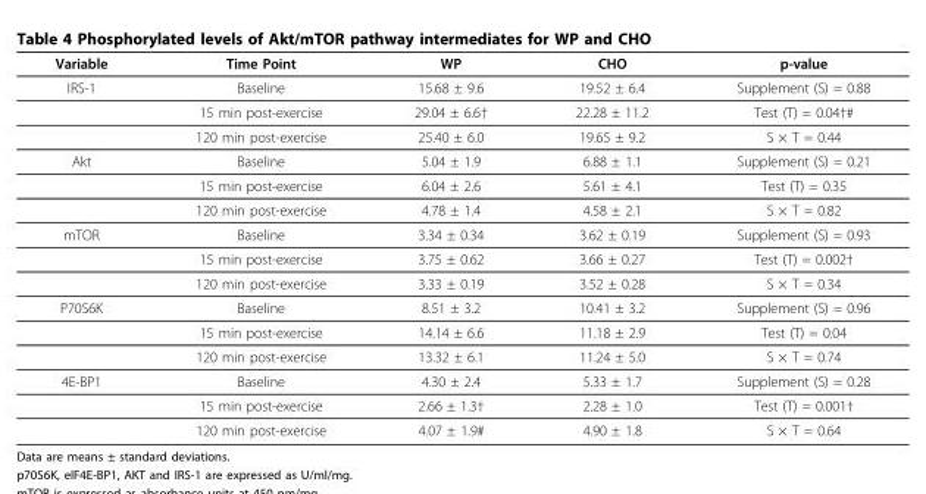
<table><thead><tr><td>Variable</td><td>Time Point</td><td>WP</td><td>CHO</td><td>p-value</td></tr></thead><tbody><tr><td rowspan="3">IRS-1</td><td>Baseline</td><td>15.68 ± 9.6</td><td>19.52 ± 6.4</td><td>Supplement (S) = 0.88</td></tr><tr><td>15 min post-exercise</td><td>29.04 ± 6.6†</td><td>22.28 ± 11.2</td><td>Test (T) = 0.04†#</td></tr><tr><td>120 min post-exercise</td><td>25.40 ± 6.0</td><td>19.65 ± 9.2</td><td>S × T = 0.44</td></tr><tr><td rowspan="3">Akt</td><td>Baseline</td><td>5.04 ± 1.9</td><td>6.88 ± 1.1</td><td>Supplement (S) = 0.21</td></tr><tr><td>15 min post-exercise</td><td>6.04 ± 2.6</td><td>5.61 ± 4.1</td><td>Test (T) = 0.35</td></tr><tr><td>120 min post-exercise</td><td>4.78 ± 1.4</td><td>4.58 ± 2.1</td><td>S × T = 0.82</td></tr><tr><td rowspan="3">mTOR</td><td>Baseline</td><td>3.34 ± 0.34</td><td>3.62 ± 0.19</td><td>Supplement (S) = 0.93</td></tr><tr><td>15 min post-exercise</td><td>3.75 ± 0.62</td><td>3.66 ± 0.27</td><td>Test (T) = 0.002†</td></tr><tr><td>120 min post-exercise</td><td>3.33 ± 0.19</td><td>3.52 ± 0.28</td><td>S × T = 0.34</td></tr><tr><td rowspan="3">P70S6K</td><td>Baseline</td><td>8.51 ± 3.2</td><td>10.41 ± 3.2</td><td>Supplement (S) = 0.96</td></tr><tr><td>15 min post-exercise</td><td>14.14 ± 6.6</td><td>11.18 ± 2.9</td><td>Test (T) = 0.04</td></tr><tr><td>120 min post-exercise</td><td>13.32 ± 6.1</td><td>11.24 ± 5.0</td><td>S × T = 0.74</td></tr><tr><td rowspan="3">4E-BP1</td><td>Baseline</td><td>4.30 ± 2.4</td><td>5.33 ± 1.7</td><td>Supplement (S) = 0.28</td></tr><tr><td>15 min post-exercise</td><td>2.66 ± 1.3†</td><td>2.28 ± 1.0</td><td>Test (T) = 0.001†</td></tr><tr><td>120 min post-exercise</td><td>4.07 ± 1.9#</td><td>4.90 ± 1.8</td><td>S × T = 0.64</td></tr></tbody></table>